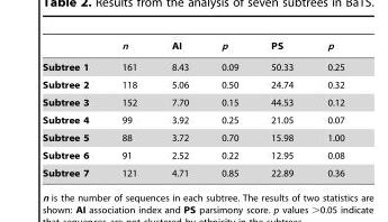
<table><thead><tr><td></td><td>n</td><td>AI</td><td>p</td><td>PS</td><td>p</td></tr></thead><tbody><tr><td>Subtree 1</td><td>161</td><td>8.43</td><td>0.09</td><td>50.33</td><td>0.25</td></tr><tr><td>Subtree 2</td><td>118</td><td>5.06</td><td>0.50</td><td>24.74</td><td>0.32</td></tr><tr><td>Subtree 3</td><td>152</td><td>7.70</td><td>0.15</td><td>44.53</td><td>0.12</td></tr><tr><td>Subtree 4</td><td>99</td><td>3.92</td><td>0.25</td><td>21.05</td><td>0.07</td></tr><tr><td>Subtree 5</td><td>88</td><td>3.72</td><td>0.70</td><td>15.98</td><td>1.00</td></tr><tr><td>Subtree 6</td><td>91</td><td>2.52</td><td>0.22</td><td>12.95</td><td>0.08</td></tr><tr><td>Subtree 7</td><td>121</td><td>4.71</td><td>0.85</td><td>22.89</td><td>0.36</td></tr></tbody></table>